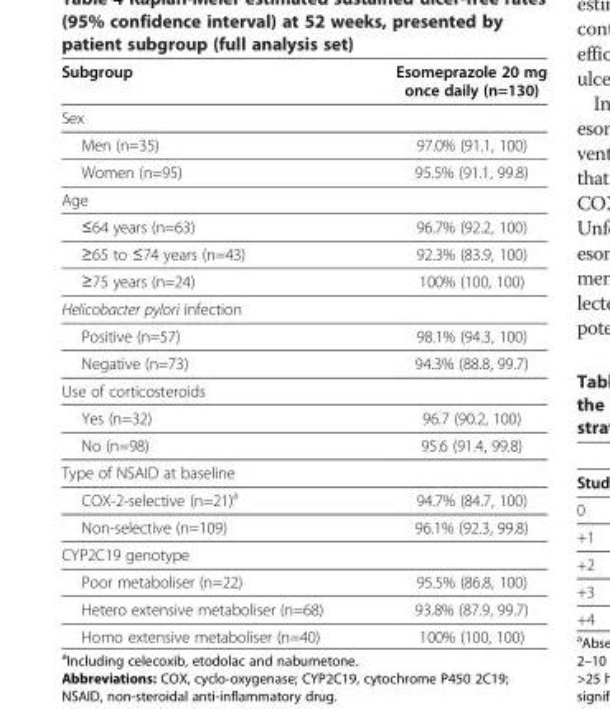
<table><thead><tr><td>Subgroup</td><td>Esomeprazole 20 mg once daily (n=130)</td></tr></thead><tbody><tr><td colspan="2">Sex</td></tr><tr><td>Men (n=35)</td><td>97.0% (91.1, 100)</td></tr><tr><td>Women (n=95)</td><td>95.5% (91.1, 99.8)</td></tr><tr><td colspan="2">Age</td></tr><tr><td>≤64 years (n=63)</td><td>96.7% (92.2, 100)</td></tr><tr><td>≥65 to ≤74 years (n=43)</td><td>92.3% (83.9, 100)</td></tr><tr><td>≥75 years (n=24)</td><td>100% (100, 100)</td></tr><tr><td colspan="2">Helicobacter pylori infection</td></tr><tr><td>Positive (n=57)</td><td>98.1% (94.3, 100)</td></tr><tr><td>Negative (n=73)</td><td>94.3% (88.8, 99.7)</td></tr><tr><td colspan="2">Use of corticosteroids</td></tr><tr><td>Yes (n=32)</td><td>96.7 (90.2, 100)</td></tr><tr><td>No (n=98)</td><td>95.6 (91.4, 99.8)</td></tr><tr><td colspan="2">Type of NSAID at baseline</td></tr><tr><td>COX-2-selective (n=21)<sup>a</sup></td><td>94.7% (84.7, 100)</td></tr><tr><td>Non-selective (n=109)</td><td>96.1% (92.3, 99.8)</td></tr><tr><td colspan="2">CYP2C19 genotype</td></tr><tr><td>Poor metaboliser (n=22)</td><td>95.5% (86.8, 100)</td></tr><tr><td>Hetero extensive metaboliser (n=68)</td><td>93.8% (87.9, 99.7)</td></tr><tr><td>Homo extensive metaboliser (n=40)</td><td>100% (100, 100)</td></tr></tbody></table>